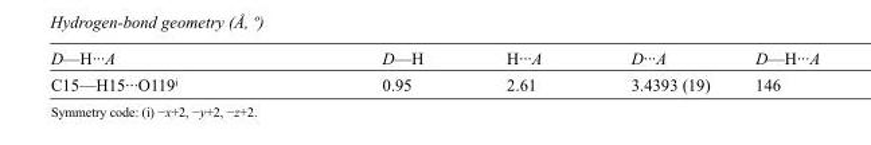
<table><tbody><tr><td>D—H···A</td><td>D—H</td><td>H···A</td><td>D···A</td><td>D—H···A</td></tr><tr><td>C15—H15···O119<sup>i</sup></td><td>0.95</td><td>2.61</td><td>3.4393 (19)</td><td>146</td></tr></tbody></table>